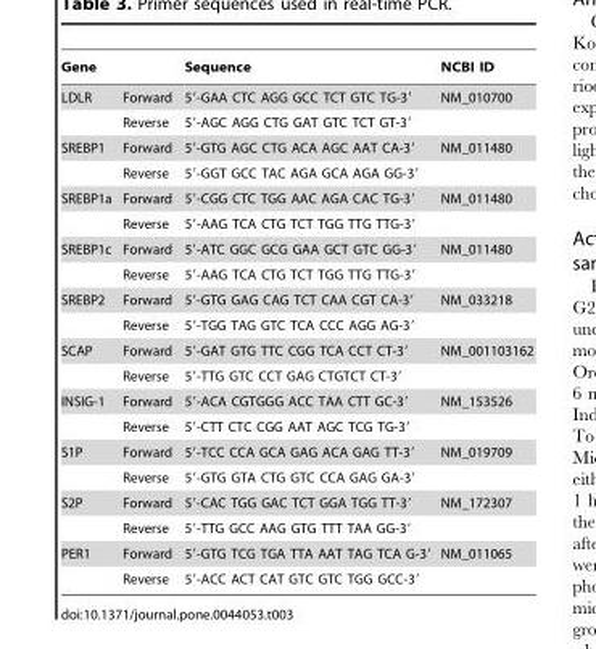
<table><thead><tr><td>Gene</td><td></td><td>Sequence</td><td>NCBI ID</td></tr></thead><tbody><tr><td rowspan="2">LDLR</td><td>Forward</td><td>5′-GAA CTC AGG GCC TCT GTC TG-3′</td><td>NM_010700</td></tr><tr><td>Reverse</td><td>5′-AGC AGG CTG GAT GTC TCT GT-3′</td><td></td></tr><tr><td rowspan="2">SREBP1</td><td>Forward</td><td>5′-GTG AGC CTG ACA AGC AAT CA-3′</td><td>NM_011480</td></tr><tr><td>Reverse</td><td>5′-GGT GCC TAC AGA GCA AGA GG-3′</td><td></td></tr><tr><td rowspan="2">SREBP1a</td><td>Forward</td><td>5′-CGG CTC TGG AAC AGA CAC TG-3′</td><td>NM_011480</td></tr><tr><td>Reverse</td><td>5′-AAG TCA CTG TCT TGG TTG TTG-3′</td><td></td></tr><tr><td rowspan="2">SREBP1c</td><td>Forward</td><td>5′-ATC GGC GCG GAA GCT GTC GG-3′</td><td>NM_011480</td></tr><tr><td>Reverse</td><td>5′-AAG TCA CTG TCT TGG TTG TTG-3′</td><td></td></tr><tr><td rowspan="2">SREBP2</td><td>Forward</td><td>5′-GTG GAG CAG TCT CAA CGT CA-3′</td><td>NM_033218</td></tr><tr><td>Reverse</td><td>5′-TGG TAG GTC TCA CCC AGG AG-3′</td><td></td></tr><tr><td rowspan="2">SCAP</td><td>Forward</td><td>5′-GAT GTG TTC CGG TCA CCT CT-3′</td><td>NM_001103162</td></tr><tr><td>Reverse</td><td>5′-TTG GTC CCT GAG CTGTCT CT-3′</td><td></td></tr><tr><td rowspan="2">INSIG-1</td><td>Forward</td><td>5′-ACA CGTGGG ACC TAA CTT GC-3′</td><td>NM_153526</td></tr><tr><td>Reverse</td><td>5′-CTT CTC CGG AAT AGC TCG TG-3′</td><td></td></tr><tr><td rowspan="2">S1P</td><td>Forward</td><td>5′-TCC CCA GCA GAG ACA GAG TT-3′</td><td>NM_019709</td></tr><tr><td>Reverse</td><td>5′-GTG GTA CTG GTC CCA GAG GA-3′</td><td></td></tr><tr><td rowspan="2">S2P</td><td>Forward</td><td>5′-CAC TGG GAC TCT GGA TGG TT-3′</td><td>NM_172307</td></tr><tr><td>Reverse</td><td>5′-TTG GCC AAG GTG TTT TAA GG-3′</td><td></td></tr><tr><td rowspan="2">PER1</td><td>Forward</td><td>5′-GTG TCG TGA TTA AAT TAG TCA G-3′</td><td>NM_011065</td></tr><tr><td>Reverse</td><td>5′-ACC ACT CAT GTC GTC TGG GCC-3′</td><td></td></tr></tbody></table>